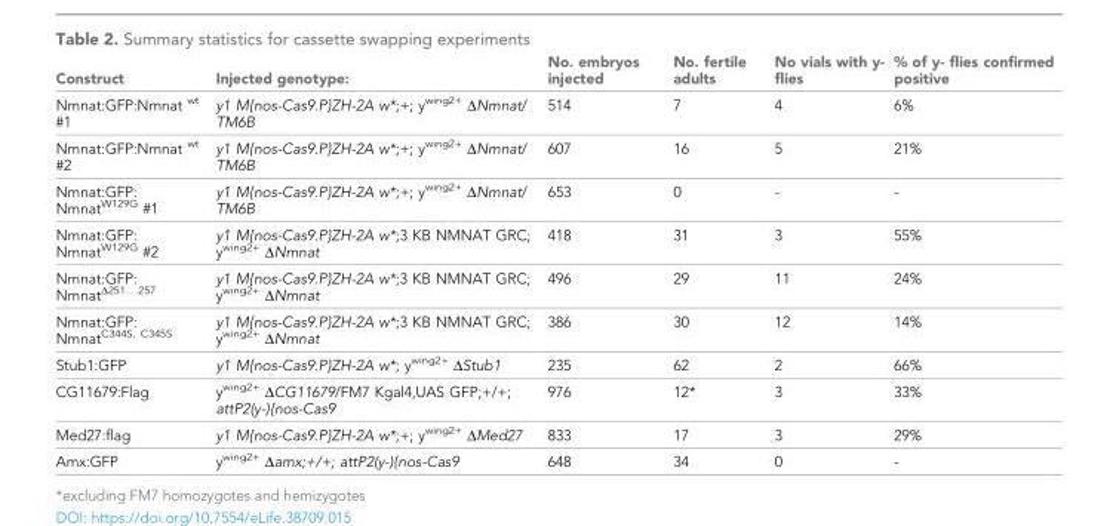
<table><thead><tr><td>Construct</td><td>Injected genotype:</td><td>No. embryos injected</td><td>No. fertile adults</td><td>No vials with y- flies</td><td>% of y- flies confirmed positive</td></tr></thead><tbody><tr><td>Nmnat:GFP:Nmnat <sup>wt</sup> #1</td><td>y1 M{nos-Cas9.P}ZH-2A w*;+; y<sup>wing2+</sup> ΔNmnat/ TM6B</td><td>514</td><td>7</td><td>4</td><td>6%</td></tr><tr><td>Nmnat:GFP:Nmnat <sup>wt</sup> #2</td><td>y1 M{nos-Cas9.P}ZH-2A w*;+; y<sup>wing2+</sup> ΔNmnat/ TM6B</td><td>607</td><td>16</td><td>5</td><td>21%</td></tr><tr><td>Nmnat:GFP: Nmnat<sup>W129G</sup> #1</td><td>y1 M{nos-Cas9.P}ZH-2A w*;+; y<sup>wing2+</sup> ΔNmnat/ TM6B</td><td>653</td><td>0</td><td>-</td><td>-</td></tr><tr><td>Nmnat:GFP: Nmnat<sup>W129G</sup> #2</td><td>y1 M{nos-Cas9.P}ZH-2A w*;3 KB NMNAT GRC; y<sup>wing2+</sup> ΔNmnat</td><td>418</td><td>31</td><td>3</td><td>55%</td></tr><tr><td>Nmnat:GFP: NmnatD251. . .257</td><td>y1 M{nos-Cas9.P}ZH-2A w*;3 KB NMNAT GRC; y<sup>wing2+</sup> ΔNmnat</td><td>496</td><td>29</td><td>11</td><td>24%</td></tr><tr><td>Nmnat:GFP: Nmnat<sup>C344S, C345S</sup></td><td>y1 M{nos-Cas9.P}ZH-2A w*;3 KB NMNAT GRC; y<sup>wing2+</sup> ΔNmnat</td><td>386</td><td>30</td><td>12</td><td>14%</td></tr><tr><td>Stub1:GFP</td><td>y1 M{nos-Cas9.P}ZH-2A w*; y<sup>wing2+</sup> ΔStub1</td><td>235</td><td>62</td><td>2</td><td>66%</td></tr><tr><td>CG11679:Flag</td><td>y<sup>wing2+</sup> ΔCG11679/FM7 Kgal4,UAS GFP;+/+; attP2(y-){nos-Cas9</td><td>976</td><td>12*</td><td>3</td><td>33%</td></tr><tr><td>Med27:flag</td><td>y1 M{nos-Cas9.P}ZH-2A w*;+; y<sup>wing2+</sup> ΔMed27</td><td>833</td><td>17</td><td>3</td><td>29%</td></tr><tr><td>Amx:GFP</td><td>y<sup>wing2+</sup> Δamx;+/+; attP2(y-){nos-Cas9</td><td>648</td><td>34</td><td>0</td><td>-</td></tr></tbody></table>